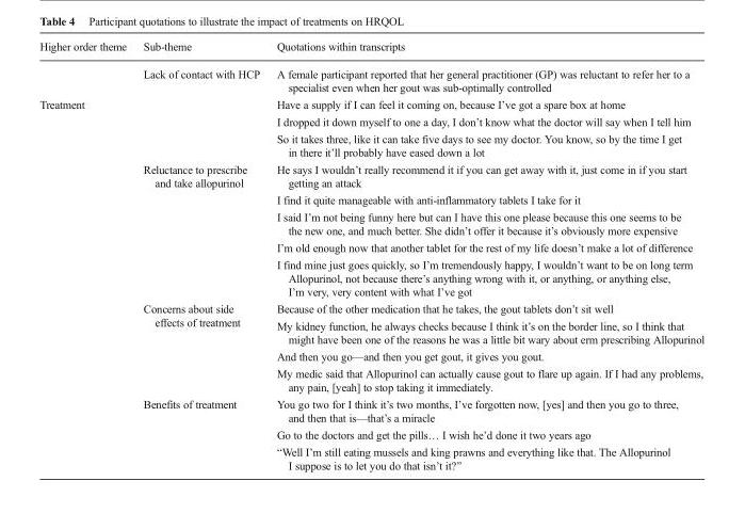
<table><thead><tr><td>Higher order theme</td><td>Sub-theme</td><td>Quotations within transcripts</td></tr></thead><tbody><tr><td></td><td rowspan="4">Lack of contact with HCP</td><td>A female participant reported that her general practitioner (GP) was reluctant to refer her to a specialist even when her gout was sub-optimally controlled</td></tr><tr><td rowspan="15">Treatment</td><td>Have a supply if I can feel it coming on, because I’ve got a spare box at home</td></tr><tr><td>I dropped it down myself to one a day, I don’t know what the doctor will say when I tell him</td></tr><tr><td>So it takes three, like it can take five days to see my doctor. You know, so by the time I get in there it’ll probably have eased down a lot</td></tr><tr><td rowspan="5">Reluctance to prescribe and take allopurinol</td><td>He says I wouldn’t really recommend it if you can get away with it, just come in if you start getting an attack</td></tr><tr><td>I find it quite manageable with anti-inflammatory tablets I take for it</td></tr><tr><td>I said I’m not being funny here but can I have this one please because this one seems to be the new one, and much better. She didn’t offer it because it’s obviously more expensive</td></tr><tr><td>I’m old enough now that another tablet for the rest of my life doesn’t make a lot of difference</td></tr><tr><td>I find mine just goes quickly, so I’m tremendously happy, I wouldn’t want to be on long term Allopurinol, not because there’s anything wrong with it, or anything, or anything else, I’m very, very content with what I’ve got</td></tr><tr><td rowspan="4">Concerns about side effects of treatment</td><td>Because of the other medication that he takes, the gout tablets don’t sit well</td></tr><tr><td>My kidney function, he always checks because I think it’s on the border line, so I think that might have been one of the reasons he was a little bit wary about erm prescribing Allopurinol</td></tr><tr><td>And then you go—and then you get gout, it gives you gout.</td></tr><tr><td>My medic said that Allopurinol can actually cause gout to flare up again. If I had any problems, any pain, [yeah] to stop taking it immediately.</td></tr><tr><td rowspan="3">Benefits of treatment</td><td>You go two for I think it’s two months, I’ve forgotten now, [yes] and then you go to three, and then that is—that’s a miracle</td></tr><tr><td>Go to the doctors and get the pills… I wish he’d done it two years ago</td></tr><tr><td>“Well I’m still eating mussels and king prawns and everything like that. The Allopurinol I suppose is to let you do that isn’t it?”</td></tr></tbody></table>